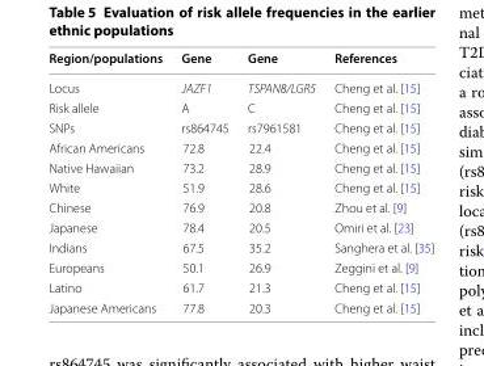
<table><thead><tr><td>Region/populations</td><td>Gene</td><td>Gene</td><td>References</td></tr></thead><tbody><tr><td>Locus</td><td>JAZF1</td><td>TSPAN8/LGR5</td><td>Cheng et al. [15]</td></tr><tr><td>Risk allele</td><td>A</td><td>C</td><td>Cheng et al. [15]</td></tr><tr><td>SNPs</td><td>rs864745</td><td>rs7961581</td><td>Cheng et al. [15]</td></tr><tr><td>African Americans</td><td>72.8</td><td>22.4</td><td>Cheng et al. [15]</td></tr><tr><td>Native Hawaiian</td><td>73.2</td><td>28.9</td><td>Cheng et al. [15]</td></tr><tr><td>White</td><td>51.9</td><td>28.6</td><td>Cheng et al. [15]</td></tr><tr><td>Chinese</td><td>76.9</td><td>20.8</td><td>Zhou et al. [9]</td></tr><tr><td>Japanese</td><td>78.4</td><td>20.5</td><td>Omiri et al. [23]</td></tr><tr><td>Indians</td><td>67.5</td><td>35.2</td><td>Sanghera et al. [35]</td></tr><tr><td>Europeans</td><td>50.1</td><td>26.9</td><td>Zeggini et al. [9]</td></tr><tr><td>Latino</td><td>61.7</td><td>21.3</td><td>Cheng et al. [15]</td></tr><tr><td>Japanese Americans</td><td>77.8</td><td>20.3</td><td>Cheng et al. [15]</td></tr></tbody></table>